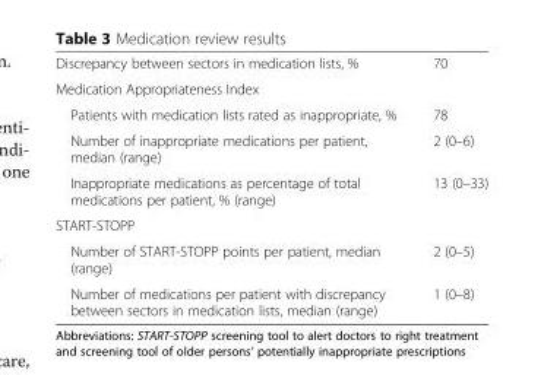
<table><tbody><tr><td>Discrepancy between sectors in medication lists, %</td><td>70</td></tr><tr><td colspan="2">Medication Appropriateness Index</td></tr><tr><td>Patients with medication lists rated as inappropriate, %</td><td>78</td></tr><tr><td>Number of inappropriate medications per patient, median (range)</td><td>2 (0–6)</td></tr><tr><td>Inappropriate medications as percentage of total medications per patient, % (range)</td><td>13 (0–33)</td></tr><tr><td colspan="2">START-STOPP</td></tr><tr><td>Number of START-STOPP points per patient, median (range)</td><td>2 (0–5)</td></tr><tr><td>Number of medications per patient with discrepancy between sectors in medication lists, median (range)</td><td>1 (0–8)</td></tr></tbody></table>